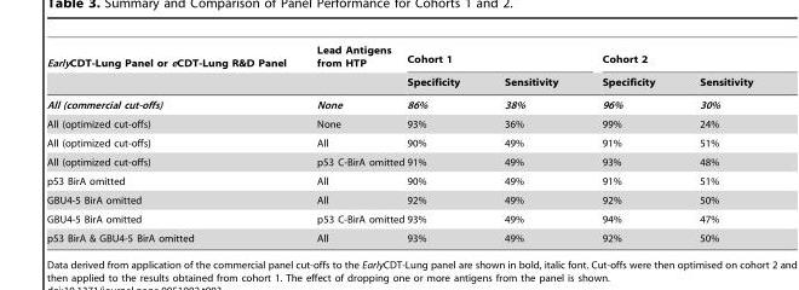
<table><thead><tr><td rowspan="2">EarlyCDT-Lung Panel or eCDT-Lung R&amp;D Panel</td><td rowspan="2">Lead Antigens from HTP</td><td colspan="2">Cohort 1</td><td colspan="2">Cohort 2</td></tr><tr><td>Specificity</td><td>Sensitivity</td><td>Specificity</td><td>Sensitivity</td></tr></thead><tbody><tr><td>All (commercial cut-offs)</td><td>None</td><td>86%</td><td>38%</td><td>96%</td><td>30%</td></tr><tr><td>All (optimized cut-offs)</td><td>None</td><td>93%</td><td>36%</td><td>99%</td><td>24%</td></tr><tr><td>All (optimized cut-offs)</td><td>All</td><td>90%</td><td>49%</td><td>91%</td><td>51%</td></tr><tr><td>All (optimized cut-offs)</td><td>p53 C-BirA omitted</td><td>91%</td><td>49%</td><td>93%</td><td>48%</td></tr><tr><td>p53 BirA omitted</td><td>All</td><td>90%</td><td>49%</td><td>91%</td><td>51%</td></tr><tr><td>GBU4-5 BirA omitted</td><td>All</td><td>92%</td><td>49%</td><td>92%</td><td>50%</td></tr><tr><td>GBU4-5 BirA omitted</td><td>p53 C-BirA omitted</td><td>93%</td><td>49%</td><td>94%</td><td>47%</td></tr><tr><td>p53 BirA &amp; GBU4-5 BirA omitted</td><td>All</td><td>93%</td><td>49%</td><td>92%</td><td>50%</td></tr></tbody></table>